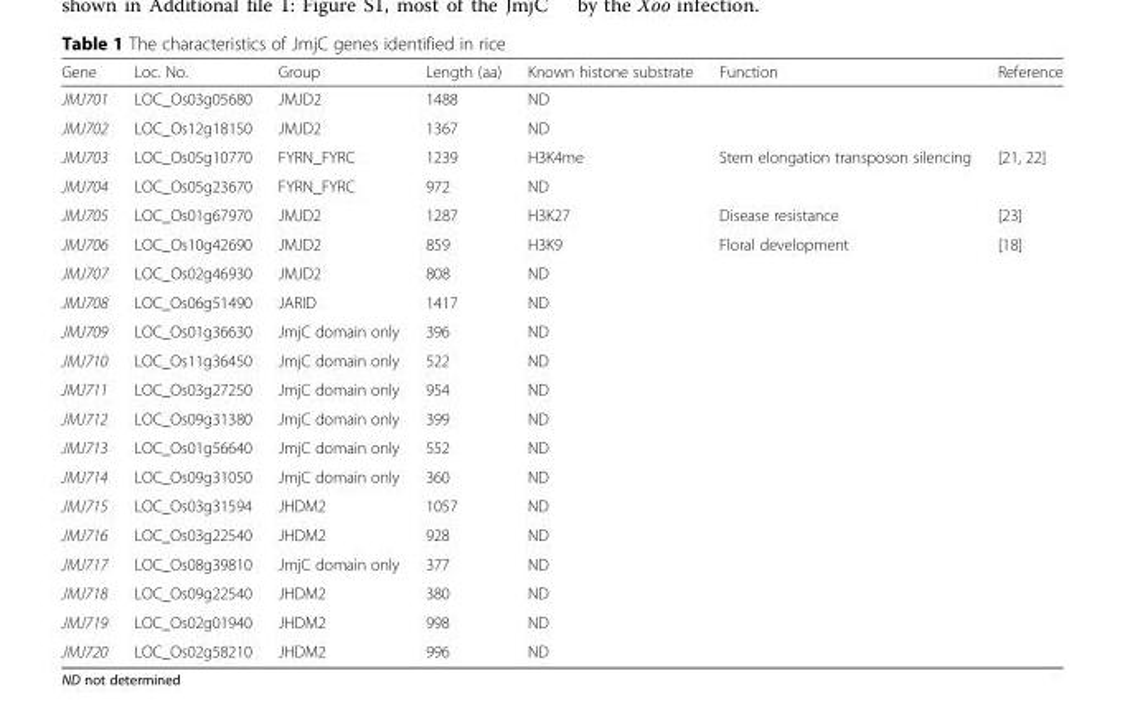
<table><thead><tr><td>Gene</td><td>Loc. No.</td><td>Group</td><td>Length (aa)</td><td>Known histone substrate</td><td>Function</td><td>Reference</td></tr></thead><tbody><tr><td>JMJ701</td><td>LOC_Os03g05680</td><td>JMJD2</td><td>1488</td><td>ND</td><td></td><td></td></tr><tr><td>JMJ702</td><td>LOC_Os12g18150</td><td>JMJD2</td><td>1367</td><td>ND</td><td></td><td></td></tr><tr><td>JMJ703</td><td>LOC_Os05g10770</td><td>FYRN_FYRC</td><td>1239</td><td>H3K4me</td><td>Stem elongation transposon silencing</td><td>[21, 22]</td></tr><tr><td>JMJ704</td><td>LOC_Os05g23670</td><td>FYRN_FYRC</td><td>972</td><td>ND</td><td></td><td></td></tr><tr><td>JMJ705</td><td>LOC_Os01g67970</td><td>JMJD2</td><td>1287</td><td>H3K27</td><td>Disease resistance</td><td>[23]</td></tr><tr><td>JMJ706</td><td>LOC_Os10g42690</td><td>JMJD2</td><td>859</td><td>H3K9</td><td>Floral development</td><td>[18]</td></tr><tr><td>JMJ707</td><td>LOC_Os02g46930</td><td>JMJD2</td><td>808</td><td>ND</td><td></td><td></td></tr><tr><td>JMJ708</td><td>LOC_Os06g51490</td><td>JARID</td><td>1417</td><td>ND</td><td></td><td></td></tr><tr><td>JMJ709</td><td>LOC_Os01g36630</td><td>JmjC domain only</td><td>396</td><td>ND</td><td></td><td></td></tr><tr><td>JMJ710</td><td>LOC_Os11g36450</td><td>JmjC domain only</td><td>522</td><td>ND</td><td></td><td></td></tr><tr><td>JMJ711</td><td>LOC_Os03g27250</td><td>JmjC domain only</td><td>954</td><td>ND</td><td></td><td></td></tr><tr><td>JMJ712</td><td>LOC_Os09g31380</td><td>JmjC domain only</td><td>399</td><td>ND</td><td></td><td></td></tr><tr><td>JMJ713</td><td>LOC_Os01g56640</td><td>JmjC domain only</td><td>552</td><td>ND</td><td></td><td></td></tr><tr><td>JMJ714</td><td>LOC_Os09g31050</td><td>JmjC domain only</td><td>360</td><td>ND</td><td></td><td></td></tr><tr><td>JMJ715</td><td>LOC_Os03g31594</td><td>JHDM2</td><td>1057</td><td>ND</td><td></td><td></td></tr><tr><td>JMJ716</td><td>LOC_Os03g22540</td><td>JHDM2</td><td>928</td><td>ND</td><td></td><td></td></tr><tr><td>JMJ717</td><td>LOC_Os08g39810</td><td>JmjC domain only</td><td>377</td><td>ND</td><td></td><td></td></tr><tr><td>JMJ718</td><td>LOC_Os09g22540</td><td>JHDM2</td><td>380</td><td>ND</td><td></td><td></td></tr><tr><td>JMJ719</td><td>LOC_Os02g01940</td><td>JHDM2</td><td>998</td><td>ND</td><td></td><td></td></tr><tr><td>JMJ720</td><td>LOC_Os02g58210</td><td>JHDM2</td><td>996</td><td>ND</td><td></td><td></td></tr></tbody></table>